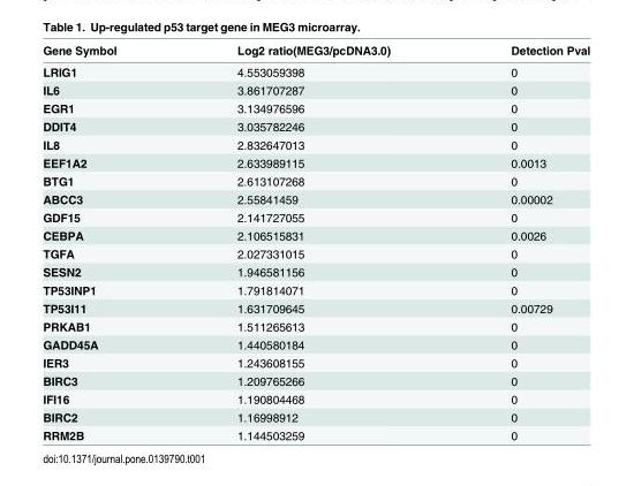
<table><thead><tr><td>Gene Symbol</td><td>Log2 ratio(MEG3/pcDNA3.0)</td><td>Detection Pval</td></tr></thead><tbody><tr><td>LRIG1</td><td>4.553059398</td><td>0</td></tr><tr><td>IL6</td><td>3.861707287</td><td>0</td></tr><tr><td>EGR1</td><td>3.134976596</td><td>0</td></tr><tr><td>DDIT4</td><td>3.035782246</td><td>0</td></tr><tr><td>IL8</td><td>2.832647013</td><td>0</td></tr><tr><td>EEF1A2</td><td>2.633989115</td><td>0.0013</td></tr><tr><td>BTG1</td><td>2.613107268</td><td>0</td></tr><tr><td>ABCC3</td><td>2.55841459</td><td>0.00002</td></tr><tr><td>GDF15</td><td>2.141727055</td><td>0</td></tr><tr><td>CEBPA</td><td>2.106515831</td><td>0.0026</td></tr><tr><td>TGFA</td><td>2.027331015</td><td>0</td></tr><tr><td>SESN2</td><td>1.946581156</td><td>0</td></tr><tr><td>TP53INP1</td><td>1.791814071</td><td>0</td></tr><tr><td>TP53I11</td><td>1.631709645</td><td>0.00729</td></tr><tr><td>PRKAB1</td><td>1.511265613</td><td>0</td></tr><tr><td>GADD45A</td><td>1.440580184</td><td>0</td></tr><tr><td>IER3</td><td>1.243608155</td><td>0</td></tr><tr><td>BIRC3</td><td>1.209765266</td><td>0</td></tr><tr><td>IFI16</td><td>1.190804468</td><td>0</td></tr><tr><td>BIRC2</td><td>1.16998912</td><td>0</td></tr><tr><td>RRM2B</td><td>1.144503259</td><td>0</td></tr></tbody></table>